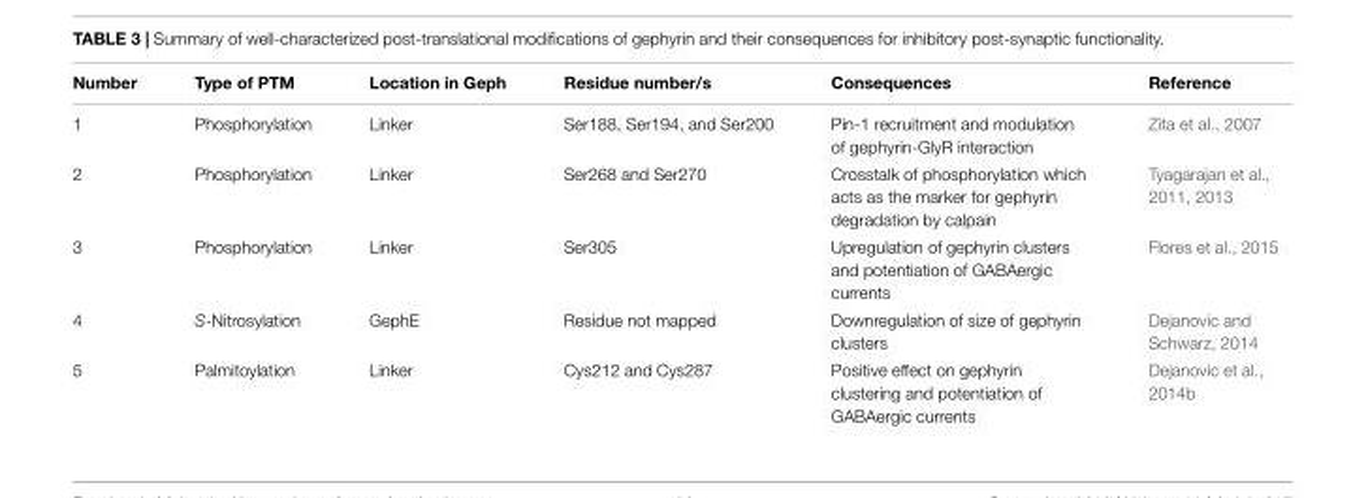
<table><thead><tr><td>Number</td><td>Type of PTM</td><td>Location in Geph</td><td>Residue number/s</td><td>Consequences</td><td>Reference</td></tr></thead><tbody><tr><td>1</td><td>Phosphorylation</td><td>Linker</td><td>Ser188, Ser194, and Ser200</td><td>Pin-1 recruitment and modulation of gephyrin-GlyR interaction</td><td>Zita et al., 2007</td></tr><tr><td>2</td><td>Phosphorylation</td><td>Linker</td><td>Ser268 and Ser270</td><td>Crosstalk of phosphorylation which acts as the marker for gephyrin degradation by calpain</td><td>Tyagarajan et al., 2011, 2013</td></tr><tr><td>3</td><td>Phosphorylation</td><td>Linker</td><td>Ser305</td><td>Upregulation of gephyrin clusters and potentiation of GABAergic currents</td><td>Flores et al., 2015</td></tr><tr><td>4</td><td>S-Nitrosylation</td><td>GephE</td><td>Residue not mapped</td><td>Downregulation of size of gephyrin clusters</td><td>Dejanovic and Schwarz, 2014</td></tr><tr><td>5</td><td>Palmitoylation</td><td>Linker</td><td>Cys212 and Cys287</td><td>Positive effect on gephyrin clustering and potentiation of GABAergic currents</td><td>Dejanovic et al., 2014b</td></tr></tbody></table>